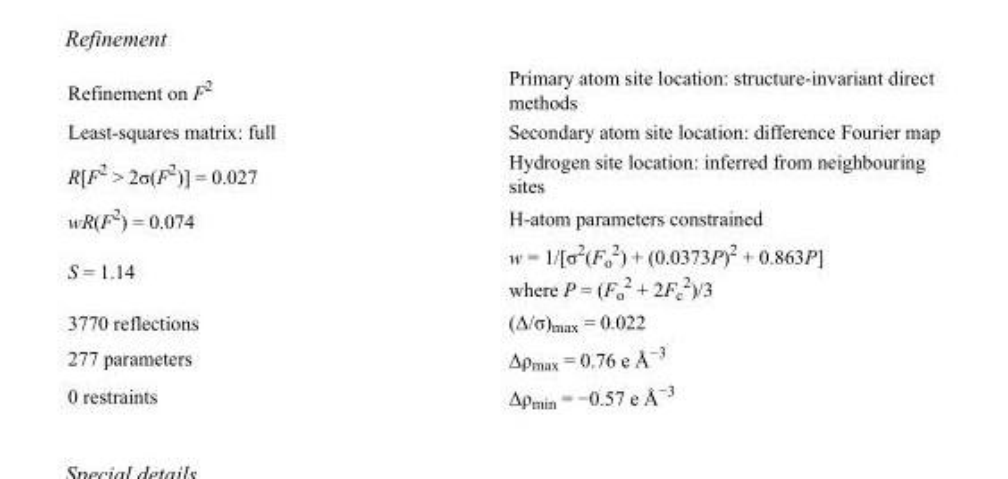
<table><tbody><tr><td>Refinement on F<sup>2</sup></td><td>Primary atom site location: structure-invariant direct methods</td></tr><tr><td>Least-squares matrix: full</td><td>Secondary atom site location: difference Fourier map</td></tr><tr><td>R[F<sup>2</sup> &gt; 2σ(F<sup>2</sup>)] = 0.027</td><td>Hydrogen site location: inferred from neighbouring sites</td></tr><tr><td>wR(F<sup>2</sup>) = 0.074</td><td>H-atom parameters constrained</td></tr><tr><td>S = 1.14</td><td>w = 1/[σ<sup>2</sup>(F<sub>o</sub> <sup>2</sup>) + (0.0373P)<sup>2</sup> + 0.863P] where P = (F<sub>o</sub> <sup>2</sup> + 2F<sub>c</sub> <sup>2</sup>)/3</td></tr><tr><td>3770 reflections</td><td>(Δ/σ)<sub>max</sub> = 0.022</td></tr><tr><td>277 parameters</td><td>Δρ<sub>max</sub> = 0.76 e Å<sup>−3</sup></td></tr><tr><td>0 restraints</td><td>Δρ<sub>min</sub> = −0.57 e Å<sup>−3</sup></td></tr></tbody></table>